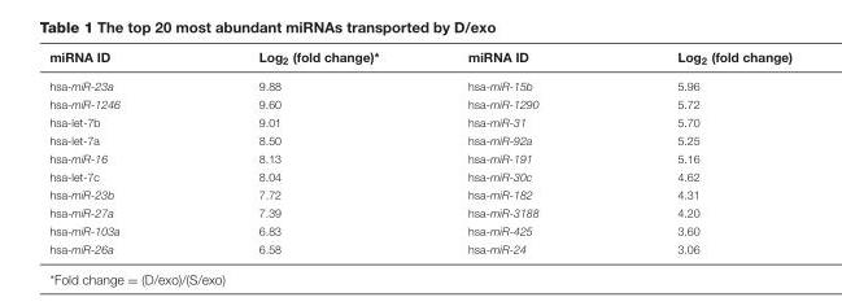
<table><thead><tr><td>miRNA ID</td><td>Log<sub>2</sub> (fold change)*</td><td>miRNA ID</td><td>Log<sub>2</sub> (fold change)</td></tr></thead><tbody><tr><td>hsa-miR-23a</td><td>9.88</td><td>hsa-miR-15b</td><td>5.96</td></tr><tr><td>hsa-miR-1246</td><td>9.60</td><td>hsa-miR-1290</td><td>5.72</td></tr><tr><td>hsa-let-7b</td><td>9.01</td><td>hsa-miR-31</td><td>5.70</td></tr><tr><td>hsa-let-7a</td><td>8.50</td><td>hsa-miR-92a</td><td>5.25</td></tr><tr><td>hsa-miR-16</td><td>8.13</td><td>hsa-miR-191</td><td>5.16</td></tr><tr><td>hsa-let-7c</td><td>8.04</td><td>hsa-miR-30c</td><td>4.62</td></tr><tr><td>hsa-miR-23b</td><td>7.72</td><td>hsa-miR-182</td><td>4.31</td></tr><tr><td>hsa-miR-27a</td><td>7.39</td><td>hsa-miR-3188</td><td>4.20</td></tr><tr><td>hsa-miR-103a</td><td>6.83</td><td>hsa-miR-425</td><td>3.60</td></tr><tr><td>hsa-miR-26a</td><td>6.58</td><td>hsa-miR-24</td><td>3.06</td></tr></tbody></table>